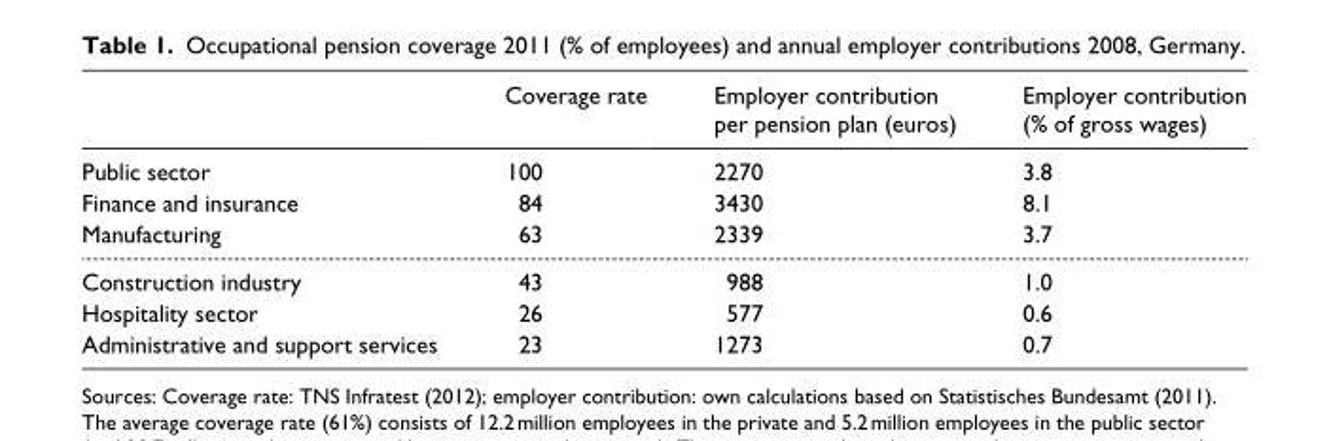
<table><thead><tr><td></td><td>Coverage rate</td><td>Employer contribution per pension plan (euros)</td><td>Employer contribution (% of gross wages)</td></tr></thead><tbody><tr><td>Public sector</td><td>100</td><td>2270</td><td>3.8</td></tr><tr><td>Finance and insurance</td><td>84</td><td>3430</td><td>8.1</td></tr><tr><td>Manufacturing</td><td>63</td><td>2339</td><td>3.7</td></tr><tr><td>Construction industry</td><td>43</td><td>988</td><td>1.0</td></tr><tr><td>Hospitality sector</td><td>26</td><td>577</td><td>0.6</td></tr><tr><td>Administrative and support services</td><td>23</td><td>1273</td><td>0.7</td></tr></tbody></table>